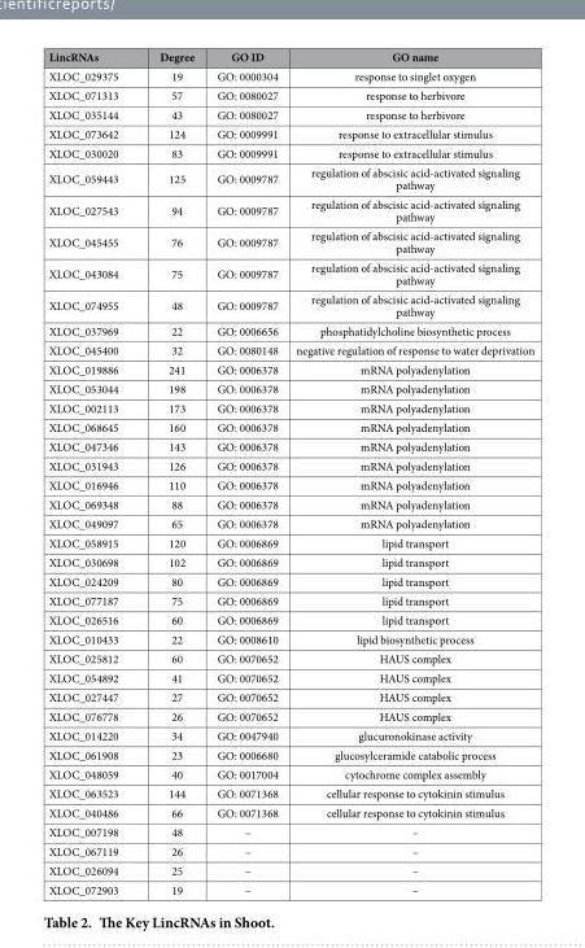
<table><thead><tr><td>LincRNAs</td><td>Degree</td><td>GO ID</td><td>GO name</td></tr></thead><tbody><tr><td>XLOC_029375</td><td>19</td><td>GO: 0000304</td><td>response to singlet oxygen</td></tr><tr><td>XLOC_071313</td><td>57</td><td>GO: 0080027</td><td>response to herbivore</td></tr><tr><td>XLOC_035144</td><td>43</td><td>GO: 0080027</td><td>response to herbivore</td></tr><tr><td>XLOC_073642</td><td>124</td><td>GO: 0009991</td><td>response to extracellular stimulus</td></tr><tr><td>XLOC_030020</td><td>83</td><td>GO: 0009991</td><td>response to extracellular stimulus</td></tr><tr><td>XLOC_059443</td><td>125</td><td>GO: 0009787</td><td>regulation of abscisic acid-activated signaling pathway</td></tr><tr><td>XLOC_027543</td><td>94</td><td>GO: 0009787</td><td>regulation of abscisic acid-activated signaling pathway</td></tr><tr><td>XLOC_045455</td><td>76</td><td>GO: 0009787</td><td>regulation of abscisic acid-activated signaling pathway</td></tr><tr><td>XLOC_043084</td><td>75</td><td>GO: 0009787</td><td>regulation of abscisic acid-activated signaling pathway</td></tr><tr><td>XLOC_074955</td><td>48</td><td>GO: 0009787</td><td>regulation of abscisic acid-activated signaling pathway</td></tr><tr><td>XLOC_037969</td><td>22</td><td>GO: 0006656</td><td>phosphatidylcholine biosynthetic process</td></tr><tr><td>XLOC_045400</td><td>32</td><td>GO: 0080148</td><td>negative regulation of response to water deprivation</td></tr><tr><td>XLOC_019886</td><td>241</td><td>GO: 0006378</td><td>mRNA polyadenylation</td></tr><tr><td>XLOC_053044</td><td>198</td><td>GO: 0006378</td><td>mRNA polyadenylation</td></tr><tr><td>XLOC_002113</td><td>173</td><td>GO: 0006378</td><td>mRNA polyadenylation</td></tr><tr><td>XLOC_068645</td><td>160</td><td>GO: 0006378</td><td>mRNA polyadenylation</td></tr><tr><td>XLOC_047346</td><td>143</td><td>GO: 0006378</td><td>mRNA polyadenylation</td></tr><tr><td>XLOC_031943</td><td>126</td><td>GO: 0006378</td><td>mRNA polyadenylation</td></tr><tr><td>XLOC_016946</td><td>110</td><td>GO: 0006378</td><td>mRNA polyadenylation</td></tr><tr><td>XLOC_069348</td><td>88</td><td>GO: 0006378</td><td>mRNA polyadenylation</td></tr><tr><td>XLOC_049097</td><td>65</td><td>GO: 0006378</td><td>mRNA polyadenylation</td></tr><tr><td>XLOC_058915</td><td>120</td><td>GO: 0006869</td><td>lipid transport</td></tr><tr><td>XLOC_030698</td><td>102</td><td>GO: 0006869</td><td>lipid transport</td></tr><tr><td>XLOC_024209</td><td>80</td><td>GO: 0006869</td><td>lipid transport</td></tr><tr><td>XLOC_077187</td><td>75</td><td>GO: 0006869</td><td>lipid transport</td></tr><tr><td>XLOC_026516</td><td>60</td><td>GO: 0006869</td><td>lipid transport</td></tr><tr><td>XLOC_010433</td><td>22</td><td>GO: 0008610</td><td>lipid biosynthetic process</td></tr><tr><td>XLOC_025812</td><td>60</td><td>GO: 0070652</td><td>HAUS complex</td></tr><tr><td>XLOC_054892</td><td>41</td><td>GO: 0070652</td><td>HAUS complex</td></tr><tr><td>XLOC_027447</td><td>27</td><td>GO: 0070652</td><td>HAUS complex</td></tr><tr><td>XLOC_076778</td><td>26</td><td>GO: 0070652</td><td>HAUS complex</td></tr><tr><td>XLOC_014220</td><td>34</td><td>GO: 0047940</td><td>glucuronokinase activity</td></tr><tr><td>XLOC_061908</td><td>23</td><td>GO: 0006680</td><td>glucosylceramide catabolic process</td></tr><tr><td>XLOC_048059</td><td>40</td><td>GO: 0017004</td><td>cytochrome complex assembly</td></tr><tr><td>XLOC_063523</td><td>144</td><td>GO: 0071368</td><td>cellular response to cytokinin stimulus</td></tr><tr><td>XLOC_040486</td><td>66</td><td>GO: 0071368</td><td>cellular response to cytokinin stimulus</td></tr><tr><td>XLOC_007198</td><td>48</td><td>–</td><td>–</td></tr><tr><td>XLOC_067119</td><td>26</td><td>–</td><td>–</td></tr><tr><td>XLOC_026094</td><td>25</td><td>–</td><td>–</td></tr><tr><td>XLOC_072903</td><td>19</td><td>–</td><td>–</td></tr></tbody></table>